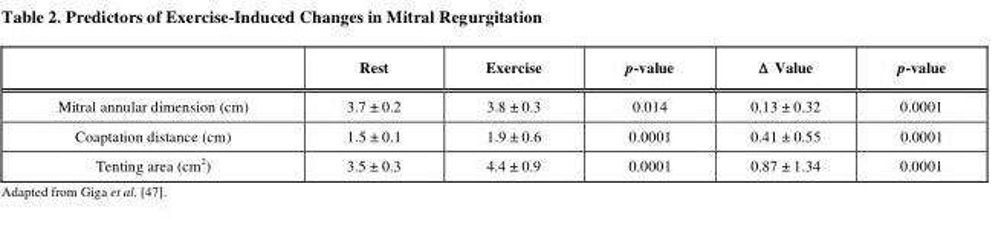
<table><thead><tr><td></td><td>Rest</td><td>Exercise</td><td>p-value</td><td>Δ Value</td><td>p-value</td></tr></thead><tbody><tr><td>Mitral annular dimension (cm)</td><td>3.7 ± 0.2</td><td>3.8 ± 0.3</td><td>0.014</td><td>0.13 ± 0.32</td><td>0.0001</td></tr><tr><td>Coaptation distance (cm)</td><td>1.5 ± 0.1</td><td>1.9 ± 0.6</td><td>0.0001</td><td>0.41 ± 0.55</td><td>0.0001</td></tr><tr><td>Tenting area (cm<sup>2</sup>)</td><td>3.5 ± 0.3</td><td>4.4 ± 0.9</td><td>0.0001</td><td>0.87 ± 1.34</td><td>0.0001</td></tr></tbody></table>